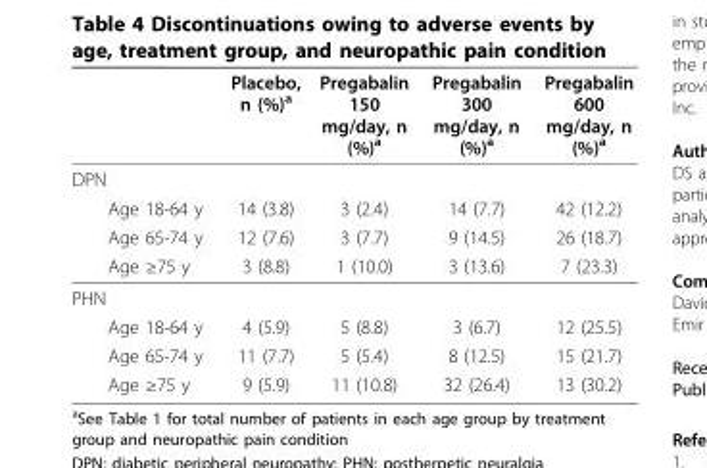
<table><thead><tr><td></td><td>Placebo, n (%)<sup>a</sup></td><td>Pregabalin 150 mg/day, n (%)<sup>a</sup></td><td>Pregabalin 300 mg/day, n (%)<sup>a</sup></td><td>Pregabalin 600 mg/day, n (%)<sup>a</sup></td></tr></thead><tbody><tr><td colspan="5">DPN</td></tr><tr><td>Age 18-64 y</td><td>14 (3.8)</td><td>3 (2.4)</td><td>14 (7.7)</td><td>42 (12.2)</td></tr><tr><td>Age 65-74 y</td><td>12 (7.6)</td><td>3 (7.7)</td><td>9 (14.5)</td><td>26 (18.7)</td></tr><tr><td>Age ≥75 y</td><td>3 (8.8)</td><td>1 (10.0)</td><td>3 (13.6)</td><td>7 (23.3)</td></tr><tr><td colspan="5">PHN</td></tr><tr><td>Age 18-64 y</td><td>4 (5.9)</td><td>5 (8.8)</td><td>3 (6.7)</td><td>12 (25.5)</td></tr><tr><td>Age 65-74 y</td><td>11 (7.7)</td><td>5 (5.4)</td><td>8 (12.5)</td><td>15 (21.7)</td></tr><tr><td>Age ≥75 y</td><td>9 (5.9)</td><td>11 (10.8)</td><td>32 (26.4)</td><td>13 (30.2)</td></tr></tbody></table>